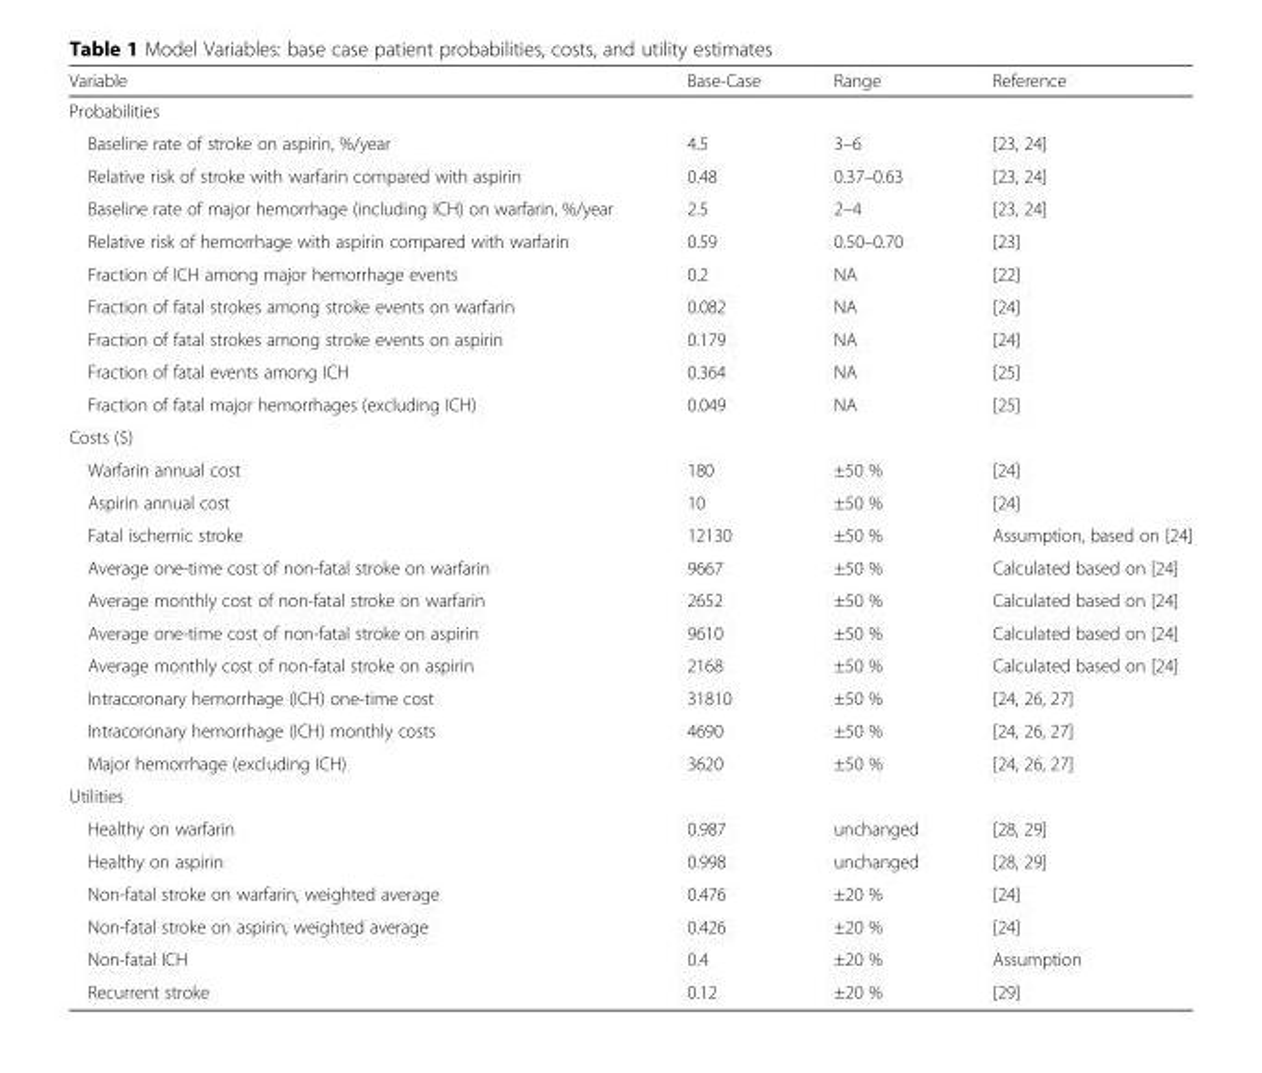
<table><thead><tr><td>Variable</td><td>Base-Case</td><td>Range</td><td>Reference</td></tr></thead><tbody><tr><td colspan="4">Probabilities</td></tr><tr><td>Baseline rate of stroke on aspirin, %/year</td><td>4.5</td><td>3–6</td><td>[23, 24]</td></tr><tr><td>Relative risk of stroke with warfarin compared with aspirin</td><td>0.48</td><td>0.37–0.63</td><td>[23, 24]</td></tr><tr><td>Baseline rate of major hemorrhage (including ICH) on warfarin, %/year</td><td>2.5</td><td>2–4</td><td>[23, 24]</td></tr><tr><td>Relative risk of hemorrhage with aspirin compared with warfarin</td><td>0.59</td><td>0.50–0.70</td><td>[23]</td></tr><tr><td>Fraction of ICH among major hemorrhage events</td><td>0.2</td><td>NA</td><td>[22]</td></tr><tr><td>Fraction of fatal strokes among stroke events on warfarin</td><td>0.082</td><td>NA</td><td>[24]</td></tr><tr><td>Fraction of fatal strokes among stroke events on aspirin</td><td>0.179</td><td>NA</td><td>[24]</td></tr><tr><td>Fraction of fatal events among ICH</td><td>0.364</td><td>NA</td><td>[25]</td></tr><tr><td>Fraction of fatal major hemorrhages (excluding ICH)</td><td>0.049</td><td>NA</td><td>[25]</td></tr><tr><td colspan="4">Costs ($)</td></tr><tr><td>Warfarin annual cost</td><td>180</td><td>±50 %</td><td>[24]</td></tr><tr><td>Aspirin annual cost</td><td>10</td><td>±50 %</td><td>[24]</td></tr><tr><td>Fatal ischemic stroke</td><td>12130</td><td>±50 %</td><td>Assumption, based on [24]</td></tr><tr><td>Average one-time cost of non-fatal stroke on warfarin</td><td>9667</td><td>±50 %</td><td>Calculated based on [24]</td></tr><tr><td>Average monthly cost of non-fatal stroke on warfarin</td><td>2652</td><td>±50 %</td><td>Calculated based on [24]</td></tr><tr><td>Average one-time cost of non-fatal stroke on aspirin</td><td>9610</td><td>±50 %</td><td>Calculated based on [24]</td></tr><tr><td>Average monthly cost of non-fatal stroke on aspirin</td><td>2168</td><td>±50 %</td><td>Calculated based on [24]</td></tr><tr><td>Intracoronary hemorrhage (ICH) one-time cost</td><td>31810</td><td>±50 %</td><td>[24, 26, 27]</td></tr><tr><td>Intracoronary hemorrhage (ICH) monthly costs</td><td>4690</td><td>±50 %</td><td>[24, 26, 27]</td></tr><tr><td>Major hemorrhage (excluding ICH)</td><td>3620</td><td>±50 %</td><td>[24, 26, 27]</td></tr><tr><td colspan="4">Utilities</td></tr><tr><td>Healthy on warfarin</td><td>0.987</td><td>unchanged</td><td>[28, 29]</td></tr><tr><td>Healthy on aspirin</td><td>0.998</td><td>unchanged</td><td>[28, 29]</td></tr><tr><td>Non-fatal stroke on warfarin, weighted average</td><td>0.476</td><td>±20 %</td><td>[24]</td></tr><tr><td>Non-fatal stroke on aspirin, weighted average</td><td>0.426</td><td>±20 %</td><td>[24]</td></tr><tr><td>Non-fatal ICH</td><td>0.4</td><td>±20 %</td><td>Assumption</td></tr><tr><td>Recurrent stroke</td><td>0.12</td><td>±20 %</td><td>[29]</td></tr></tbody></table>